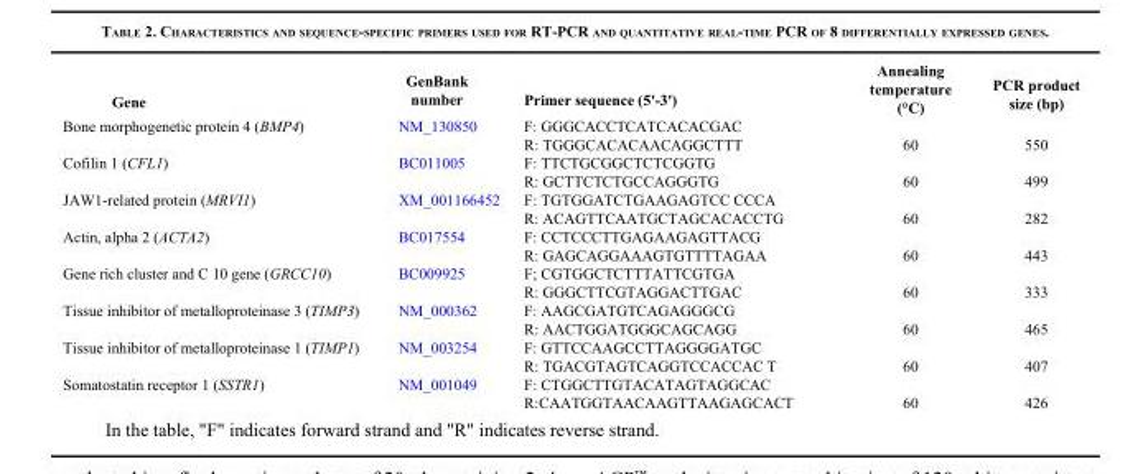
<table><thead><tr><td>Gene</td><td>GenBank number</td><td>Primer sequence (5&#x27;-3&#x27;)</td><td>Annealing temperature (°C)</td><td>PCR product size (bp)</td></tr></thead><tbody><tr><td rowspan="2">Bone morphogenetic protein 4 (BMP4)</td><td>NM_130850</td><td>F: GGGCACCTCATCACACGAC</td><td></td><td></td></tr><tr><td></td><td>R: TGGGCACACAACAGGCTTT</td><td>60</td><td>550</td></tr><tr><td rowspan="2">Cofilin 1 (CFL1)</td><td>BC011005</td><td>F: TTCTGCGGCTCTCGGTG</td><td></td><td></td></tr><tr><td></td><td>R: GCTTCTCTGCCAGGGTG</td><td>60</td><td>499</td></tr><tr><td rowspan="2">JAW1-related protein (MRVI1)</td><td>XM_001166452</td><td>F: TGTGGATCTGAAGAGTCC CCCA</td><td></td><td></td></tr><tr><td></td><td>R: ACAGTTCAATGCTAGCACACCTG</td><td>60</td><td>282</td></tr><tr><td rowspan="2">Actin, alpha 2 (ACTA2)</td><td>BC017554</td><td>F: CCTCCCTTGAGAAGAGTTACG</td><td></td><td></td></tr><tr><td></td><td>R: GAGCAGGAAAGTGTTTTAGAA</td><td>60</td><td>443</td></tr><tr><td rowspan="2">Gene rich cluster and C 10 gene (GRCC10)</td><td>BC009925</td><td>F; CGTGGCTCTTTATTCGTGA</td><td></td><td></td></tr><tr><td></td><td>R: GGGCTTCGTAGGACTTGAC</td><td>60</td><td>333</td></tr><tr><td rowspan="2">Tissue inhibitor of metalloproteinase 3 (TIMP3)</td><td>NM_000362</td><td>F: AAGCGATGTCAGAGGGCG</td><td></td><td></td></tr><tr><td></td><td>R: AACTGGATGGGCAGCAGG</td><td>60</td><td>465</td></tr><tr><td rowspan="2">Tissue inhibitor of metalloproteinase 1 (TIMP1)</td><td>NM_003254</td><td>F: GTTCCAAGCCTTAGGGGATGC</td><td></td><td></td></tr><tr><td></td><td>R: TGACGTAGTCAGGTCCACCAC T</td><td>60</td><td>407</td></tr><tr><td rowspan="2">Somatostatin receptor 1 (SSTR1)</td><td>NM_001049</td><td>F: CTGGCTTGTACATAGTAGGCAC</td><td></td><td></td></tr><tr><td></td><td>R:CAATGGTAACAAGTTAAGAGCACT</td><td>60</td><td>426</td></tr></tbody></table>